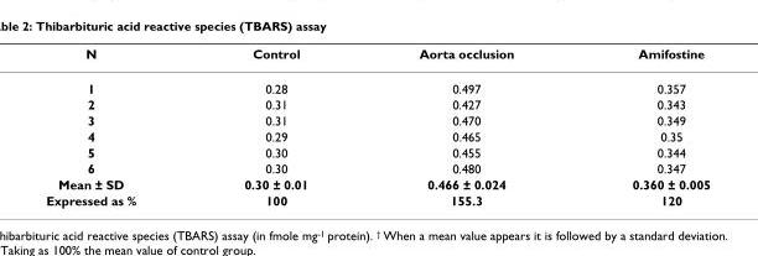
<table><thead><tr><td>N</td><td>Control</td><td>Aorta occlusion</td><td>Amifostine</td></tr></thead><tbody><tr><td>1</td><td>0.28</td><td>0.497</td><td>0.357</td></tr><tr><td>2</td><td>0.31</td><td>0.427</td><td>0.343</td></tr><tr><td>3</td><td>0.31</td><td>0.470</td><td>0.349</td></tr><tr><td>4</td><td>0.29</td><td>0.465</td><td>0.35</td></tr><tr><td>5</td><td>0.30</td><td>0.455</td><td>0.344</td></tr><tr><td>6</td><td>0.30</td><td>0.480</td><td>0.347</td></tr><tr><td>Mean ± SD</td><td>0.30 ± 0.01</td><td>0.466 ± 0.024</td><td>0.360 ± 0.005</td></tr><tr><td>Expressed as %</td><td>100</td><td>155.3</td><td>120</td></tr></tbody></table>